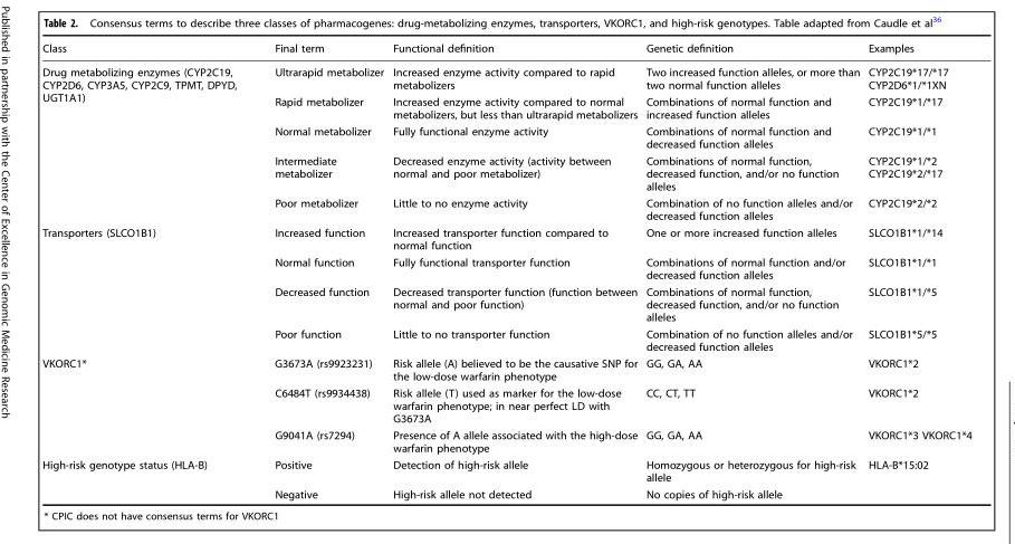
<table><thead><tr><td>Class</td><td>Final term</td><td>Functional definition</td><td>Genetic definition</td><td>Examples</td></tr></thead><tbody><tr><td rowspan="5">Drug metabolizing enzymes (CYP2C19, CYP2D6, CYP3A5, CYP2C9, TPMT, DPYD, UGT1A1)</td><td>Ultrarapid metabolizer</td><td>Increased enzyme activity compared to rapid metabolizers</td><td>Two increased function alleles, or more than two normal function alleles</td><td>CYP2C19*17/*17 CYP2D6*1/*1XN</td></tr><tr><td>Rapid metabolizer</td><td>Increased enzyme activity compared to normal metabolizers, but less than ultrarapid metabolizers</td><td>Combinations of normal function and increased function alleles</td><td>CYP2C19*1/*17</td></tr><tr><td>Normal metabolizer</td><td>Fully functional enzyme activity</td><td>Combinations of normal function and decreased function alleles</td><td>CYP2C19*1/*1</td></tr><tr><td>Intermediate metabolizer</td><td>Decreased enzyme activity (activity between normal and poor metabolizer)</td><td>Combinations of normal function, decreased function, and/or no function alleles</td><td>CYP2C19*1/*2 CYP2C19*2/*17</td></tr><tr><td>Poor metabolizer</td><td>Little to no enzyme activity</td><td>Combination of no function alleles and/or decreased function alleles</td><td>CYP2C19*2/*2</td></tr><tr><td rowspan="4">Transporters (SLCO1B1)</td><td>Increased function</td><td>Increased transporter function compared to normal function</td><td>One or more increased function alleles</td><td>SLCO1B1*1/*14</td></tr><tr><td>Normal function</td><td>Fully functional transporter function</td><td>Combinations of normal function and/or decreased function alleles</td><td>SLCO1B1*1/*1</td></tr><tr><td>Decreased function</td><td>Decreased transporter function (function between normal and poor function)</td><td>Combinations of normal function, decreased function, and/or no function alleles</td><td>SLCO1B1*1/*5</td></tr><tr><td>Poor function</td><td>Little to no transporter function</td><td>Combination of no function alleles and/or decreased function alleles</td><td>SLCO1B1*5/*5</td></tr><tr><td rowspan="3">VKORC1*</td><td>G3673A (rs9923231)</td><td>Risk allele (A) believed to be the causative SNP for the low-dose warfarin phenotype</td><td>GG, GA, AA</td><td>VKORC1*2</td></tr><tr><td>C6484T (rs9934438)</td><td>Risk allele (T) used as marker for the low-dose warfarin phenotype; in near perfect LD with G3673A</td><td>CC, CT, TT</td><td>VKORC1*2</td></tr><tr><td>G9041A (rs7294)</td><td>Presence of A allele associated with the high-dose warfarin phenotype</td><td>GG, GA, AA</td><td>VKORC1*3 VKORC1*4</td></tr><tr><td rowspan="2">High-risk genotype status (HLA-B)</td><td>Positive</td><td>Detection of high-risk allele</td><td>Homozygous or heterozygous for high-risk allele</td><td>HLA-B*15:02</td></tr><tr><td>Negative</td><td>High-risk allele not detected</td><td>No copies of high-risk allele</td><td></td></tr></tbody></table>